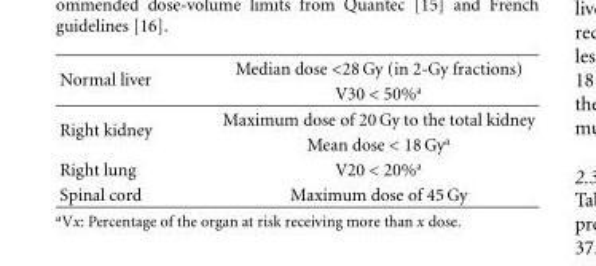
<table><tbody><tr><td rowspan="2">Normal liver</td><td>Median dose &lt;28 Gy (in 2-Gy fractions)</td></tr><tr><td>V30 &lt; 50%<sup>a</sup></td></tr><tr><td rowspan="2">Right kidney</td><td>Maximum dose of 20 Gy to the total kidney</td></tr><tr><td>Mean dose &lt; 18 Gy<sup>a</sup></td></tr><tr><td>Right lung</td><td>V20 &lt; 20%<sup>a</sup></td></tr><tr><td>Spinal cord</td><td>Maximum dose of 45 Gy</td></tr></tbody></table>